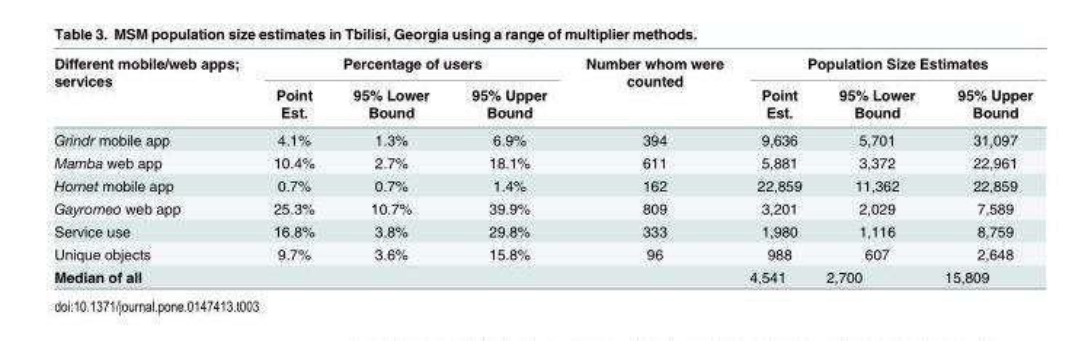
<table><thead><tr><td rowspan="2">Different mobile/web apps; services</td><td colspan="3">Percentage of users</td><td rowspan="2">Number whom were counted</td><td colspan="3">Population Size Estimates</td></tr><tr><td>Point Est.</td><td>95% Lower Bound</td><td>95% Upper Bound</td><td>Point Est.</td><td>95% Lower Bound</td><td>95% Upper Bound</td></tr></thead><tbody><tr><td>Grindr mobile app</td><td>4.1%</td><td>1.3%</td><td>6.9%</td><td>394</td><td>9,636</td><td>5,701</td><td>31,097</td></tr><tr><td>Mamba web app</td><td>10.4%</td><td>2.7%</td><td>18.1%</td><td>611</td><td>5,881</td><td>3,372</td><td>22,961</td></tr><tr><td>Hornet mobile app</td><td>0.7%</td><td>0.7%</td><td>1.4%</td><td>162</td><td>22,859</td><td>11,362</td><td>22,859</td></tr><tr><td>Gayromeo web app</td><td>25.3%</td><td>10.7%</td><td>39.9%</td><td>809</td><td>3,201</td><td>2,029</td><td>7,589</td></tr><tr><td>Service use</td><td>16.8%</td><td>3.8%</td><td>29.8%</td><td>333</td><td>1,980</td><td>1,116</td><td>8,759</td></tr><tr><td>Unique objects</td><td>9.7%</td><td>3.6%</td><td>15.8%</td><td>96</td><td>988</td><td>607</td><td>2,648</td></tr><tr><td colspan="5">Median of all</td><td>4,541</td><td>2,700</td><td>15,809</td></tr></tbody></table>